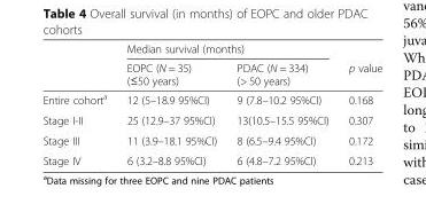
<table><thead><tr><td rowspan="2"></td><td colspan="2">Median survival (months)</td><td rowspan="2">p value</td></tr><tr><td>EOPC (N = 35) (≤50 years)</td><td>PDAC (N = 334) (&gt; 50 years)</td></tr></thead><tbody><tr><td>Entire cohort<sup>a</sup></td><td>12 (5–18.9 95%CI)</td><td>9 (7.8–10.2 95%CI)</td><td>0.168</td></tr><tr><td>Stage I-II</td><td>25 (12.9–37 95%CI)</td><td>13(10.5–15.5 95%CI)</td><td>0.307</td></tr><tr><td>Stage III</td><td>11 (3.9–18.1 95%CI)</td><td>8 (6.5–9.4 95%CI)</td><td>0.172</td></tr><tr><td>Stage IV</td><td>6 (3.2–8.8 95%CI)</td><td>6 (4.8–7.2 95%CI)</td><td>0.213</td></tr></tbody></table>